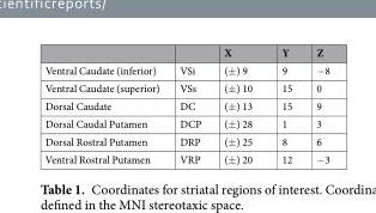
<table><thead><tr><td></td><td></td><td>X</td><td>Y</td><td>Z</td></tr></thead><tbody><tr><td>Ventral Caudate (inferior)</td><td>VSi</td><td>(±) 9</td><td>9</td><td>−8</td></tr><tr><td>Ventral Caudate (superior)</td><td>VSs</td><td>(±) 10</td><td>15</td><td>0</td></tr><tr><td>Dorsal Caudate</td><td>DC</td><td>(±) 13</td><td>15</td><td>9</td></tr><tr><td>Dorsal Caudal Putamen</td><td>DCP</td><td>(±) 28</td><td>1</td><td>3</td></tr><tr><td>Dorsal Rostral Putamen</td><td>DRP</td><td>(±) 25</td><td>8</td><td>6</td></tr><tr><td>Ventral Rostral Putamen</td><td>VRP</td><td>(±) 20</td><td>12</td><td>−3</td></tr></tbody></table>